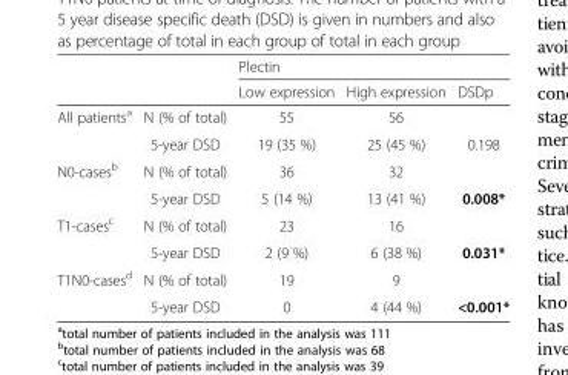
<table><thead><tr><td rowspan="2"></td><td rowspan="2"></td><td colspan="3">Plectin</td></tr><tr><td>Low expression</td><td>High expression</td><td>DSDp</td></tr></thead><tbody><tr><td rowspan="2">All patients<sup>a</sup></td><td>N (% of total)</td><td>55</td><td>56</td><td></td></tr><tr><td>5-year DSD</td><td>19 (35 %)</td><td>25 (45 %)</td><td>0.198</td></tr><tr><td rowspan="2">N0-cases<sup>b</sup></td><td>N (% of total)</td><td>36</td><td>32</td><td></td></tr><tr><td>5-year DSD</td><td>5 (14 %)</td><td>13 (41 %)</td><td>0.008*</td></tr><tr><td rowspan="2">T1-cases<sup>c</sup></td><td>N (% of total)</td><td>23</td><td>16</td><td></td></tr><tr><td>5-year DSD</td><td>2 (9 %)</td><td>6 (38 %)</td><td>0.031*</td></tr><tr><td rowspan="2">T1N0-cases<sup>d</sup></td><td>N (% of total)</td><td>19</td><td>9</td><td></td></tr><tr><td>5-year DSD</td><td>0</td><td>4 (44 %)</td><td>&lt;0.001*</td></tr></tbody></table>